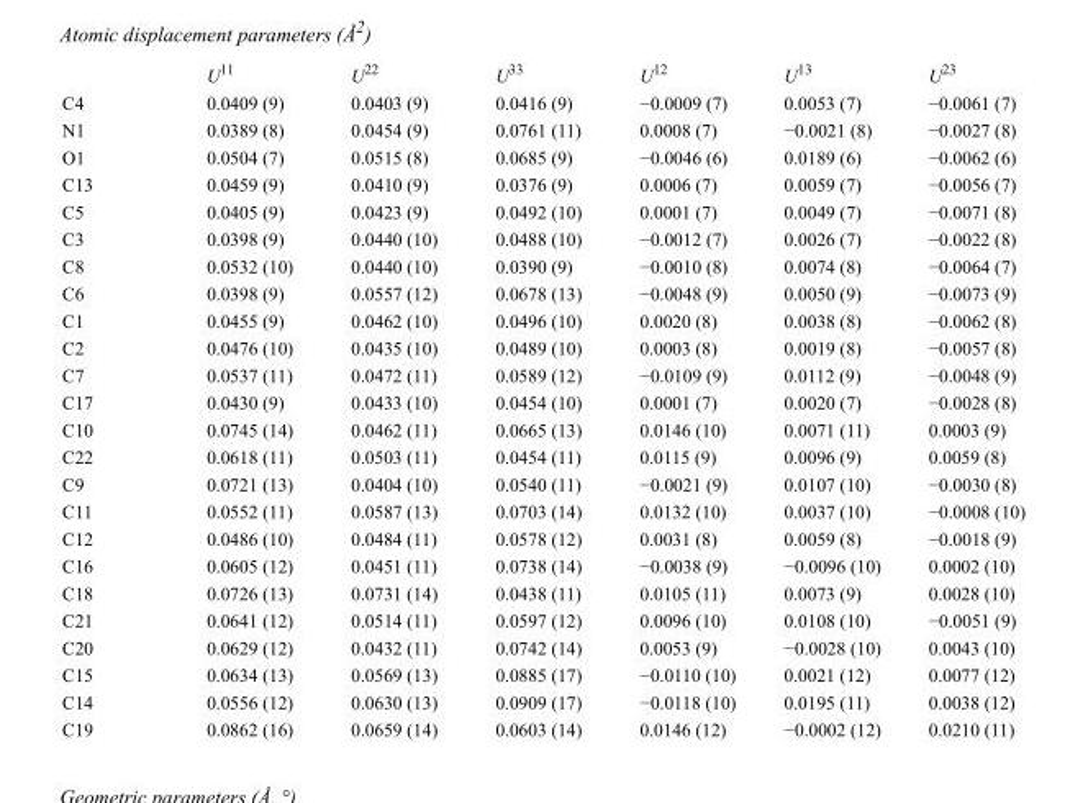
<table><thead><tr><td></td><td>U<sup>11</sup></td><td>U<sup>22</sup></td><td>U<sup>33</sup></td><td>U<sup>12</sup></td><td>U<sup>13</sup></td><td>U<sup>23</sup></td></tr></thead><tbody><tr><td>C4</td><td>0.0409 (9)</td><td>0.0403 (9)</td><td>0.0416 (9)</td><td>−0.0009 (7)</td><td>0.0053 (7)</td><td>−0.0061 (7)</td></tr><tr><td>N1</td><td>0.0389 (8)</td><td>0.0454 (9)</td><td>0.0761 (11)</td><td>0.0008 (7)</td><td>−0.0021 (8)</td><td>−0.0027 (8)</td></tr><tr><td>O1</td><td>0.0504 (7)</td><td>0.0515 (8)</td><td>0.0685 (9)</td><td>−0.0046 (6)</td><td>0.0189 (6)</td><td>−0.0062 (6)</td></tr><tr><td>C13</td><td>0.0459 (9)</td><td>0.0410 (9)</td><td>0.0376 (9)</td><td>0.0006 (7)</td><td>0.0059 (7)</td><td>−0.0056 (7)</td></tr><tr><td>C5</td><td>0.0405 (9)</td><td>0.0423 (9)</td><td>0.0492 (10)</td><td>0.0001 (7)</td><td>0.0049 (7)</td><td>−0.0071 (8)</td></tr><tr><td>C3</td><td>0.0398 (9)</td><td>0.0440 (10)</td><td>0.0488 (10)</td><td>−0.0012 (7)</td><td>0.0026 (7)</td><td>−0.0022 (8)</td></tr><tr><td>C8</td><td>0.0532 (10)</td><td>0.0440 (10)</td><td>0.0390 (9)</td><td>−0.0010 (8)</td><td>0.0074 (8)</td><td>−0.0064 (7)</td></tr><tr><td>C6</td><td>0.0398 (9)</td><td>0.0557 (12)</td><td>0.0678 (13)</td><td>−0.0048 (9)</td><td>0.0050 (9)</td><td>−0.0073 (9)</td></tr><tr><td>C1</td><td>0.0455 (9)</td><td>0.0462 (10)</td><td>0.0496 (10)</td><td>0.0020 (8)</td><td>0.0038 (8)</td><td>−0.0062 (8)</td></tr><tr><td>C2</td><td>0.0476 (10)</td><td>0.0435 (10)</td><td>0.0489 (10)</td><td>0.0003 (8)</td><td>0.0019 (8)</td><td>−0.0057 (8)</td></tr><tr><td>C7</td><td>0.0537 (11)</td><td>0.0472 (11)</td><td>0.0589 (12)</td><td>−0.0109 (9)</td><td>0.0112 (9)</td><td>−0.0048 (9)</td></tr><tr><td>C17</td><td>0.0430 (9)</td><td>0.0433 (10)</td><td>0.0454 (10)</td><td>0.0001 (7)</td><td>0.0020 (7)</td><td>−0.0028 (8)</td></tr><tr><td>C10</td><td>0.0745 (14)</td><td>0.0462 (11)</td><td>0.0665 (13)</td><td>0.0146 (10)</td><td>0.0071 (11)</td><td>0.0003 (9)</td></tr><tr><td>C22</td><td>0.0618 (11)</td><td>0.0503 (11)</td><td>0.0454 (11)</td><td>0.0115 (9)</td><td>0.0096 (9)</td><td>0.0059 (8)</td></tr><tr><td>C9</td><td>0.0721 (13)</td><td>0.0404 (10)</td><td>0.0540 (11)</td><td>−0.0021 (9)</td><td>0.0107 (10)</td><td>−0.0030 (8)</td></tr><tr><td>C11</td><td>0.0552 (11)</td><td>0.0587 (13)</td><td>0.0703 (14)</td><td>0.0132 (10)</td><td>0.0037 (10)</td><td>−0.0008 (10)</td></tr><tr><td>C12</td><td>0.0486 (10)</td><td>0.0484 (11)</td><td>0.0578 (12)</td><td>0.0031 (8)</td><td>0.0059 (8)</td><td>−0.0018 (9)</td></tr><tr><td>C16</td><td>0.0605 (12)</td><td>0.0451 (11)</td><td>0.0738 (14)</td><td>−0.0038 (9)</td><td>−0.0096 (10)</td><td>0.0002 (10)</td></tr><tr><td>C18</td><td>0.0726 (13)</td><td>0.0731 (14)</td><td>0.0438 (11)</td><td>0.0105 (11)</td><td>0.0073 (9)</td><td>0.0028 (10)</td></tr><tr><td>C21</td><td>0.0641 (12)</td><td>0.0514 (11)</td><td>0.0597 (12)</td><td>0.0096 (10)</td><td>0.0108 (10)</td><td>−0.0051 (9)</td></tr><tr><td>C20</td><td>0.0629 (12)</td><td>0.0432 (11)</td><td>0.0742 (14)</td><td>0.0053 (9)</td><td>−0.0028 (10)</td><td>0.0043 (10)</td></tr><tr><td>C15</td><td>0.0634 (13)</td><td>0.0569 (13)</td><td>0.0885 (17)</td><td>−0.0110 (10)</td><td>0.0021 (12)</td><td>0.0077 (12)</td></tr><tr><td>C14</td><td>0.0556 (12)</td><td>0.0630 (13)</td><td>0.0909 (17)</td><td>−0.0118 (10)</td><td>0.0195 (11)</td><td>0.0038 (12)</td></tr><tr><td>C19</td><td>0.0862 (16)</td><td>0.0659 (14)</td><td>0.0603 (14)</td><td>0.0146 (12)</td><td>−0.0002 (12)</td><td>0.0210 (11)</td></tr></tbody></table>